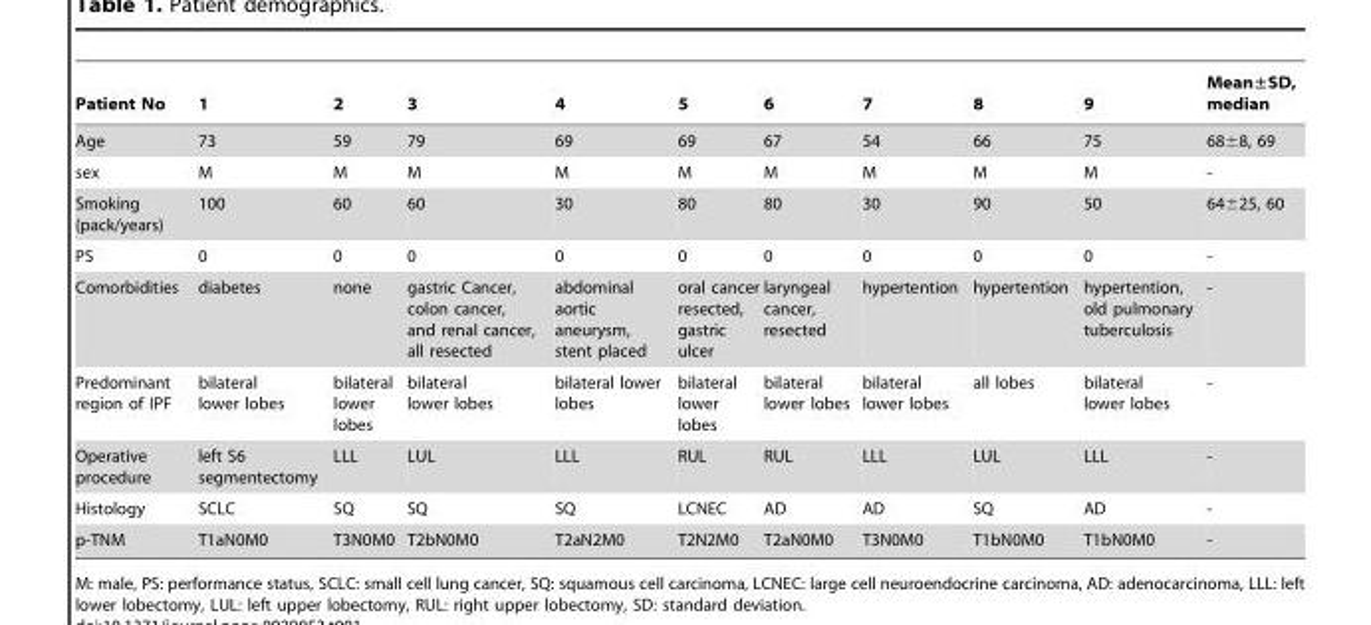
<table><thead><tr><td>Patient No</td><td>1</td><td>2</td><td>3</td><td>4</td><td>5</td><td>6</td><td>7</td><td>8</td><td>9</td><td>Mean±SD, median</td></tr></thead><tbody><tr><td>Age</td><td>73</td><td>59</td><td>79</td><td>69</td><td>69</td><td>67</td><td>54</td><td>66</td><td>75</td><td>68±8, 69</td></tr><tr><td>sex</td><td>M</td><td>M</td><td>M</td><td>M</td><td>M</td><td>M</td><td>M</td><td>M</td><td>M</td><td>-</td></tr><tr><td>Smoking (pack/years)</td><td>100</td><td>60</td><td>60</td><td>30</td><td>80</td><td>80</td><td>30</td><td>90</td><td>50</td><td>64±25, 60</td></tr><tr><td>PS</td><td>0</td><td>0</td><td>0</td><td>0</td><td>0</td><td>0</td><td>0</td><td>0</td><td>0</td><td>-</td></tr><tr><td>Comorbidities</td><td>diabetes</td><td>none</td><td>gastric Cancer, colon cancer, and renal cancer, all resected</td><td>abdominal aortic aneurysm, stent placed</td><td>oral cancer resected, gastric ulcer</td><td>laryngeal cancer, resected</td><td>hypertention</td><td>hypertention</td><td>hypertention, old pulmonary tuberculosis</td><td>-</td></tr><tr><td>Predominant region of IPF</td><td>bilateral lower lobes</td><td>bilateral lower lobes</td><td>bilateral lower lobes</td><td>bilateral lower lobes</td><td>bilateral lower lobes</td><td>bilateral lower lobes</td><td>bilateral lower lobes</td><td>all lobes</td><td>bilateral lower lobes</td><td>-</td></tr><tr><td>Operative procedure</td><td>left S6 segmentectomy</td><td>LLL</td><td>LUL</td><td>LLL</td><td>RUL</td><td>RUL</td><td>LLL</td><td>LUL</td><td>LLL</td><td>-</td></tr><tr><td>Histology</td><td>SCLC</td><td>SQ</td><td>SQ</td><td>SQ</td><td>LCNEC</td><td>AD</td><td>AD</td><td>SQ</td><td>AD</td><td>-</td></tr><tr><td>p-TNM</td><td>T1aN0M0</td><td>T3N0M0</td><td>T2bN0M0</td><td>T2aN2M0</td><td>T2N2M0</td><td>T2aN0M0</td><td>T3N0M0</td><td>T1bN0M0</td><td>T1bN0M0</td><td>-</td></tr></tbody></table>